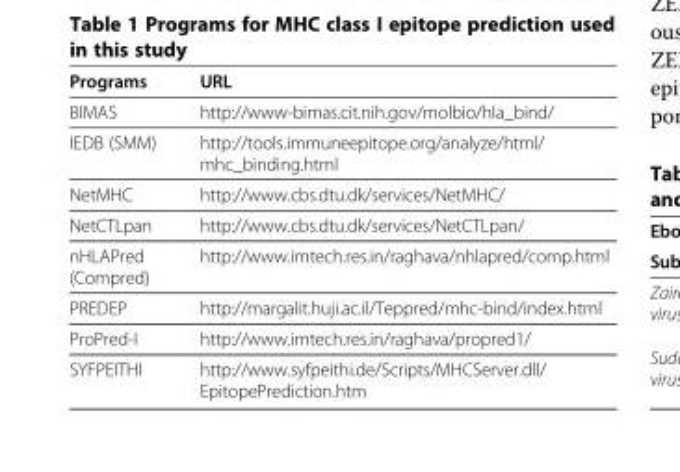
<table><thead><tr><td>Programs</td><td>URL</td></tr></thead><tbody><tr><td>BIMAS</td><td>http://www-bimas.cit.nih.gov/molbio/hla_bind/</td></tr><tr><td>IEDB (SMM)</td><td>http://tools.immuneepitope.org/analyze/html/ mhc_binding.html</td></tr><tr><td>NetMHC</td><td>http://www.cbs.dtu.dk/services/NetMHC/</td></tr><tr><td>NetCTLpan</td><td>http://www.cbs.dtu.dk/services/NetCTLpan/</td></tr><tr><td>nHLAPred (Compred)</td><td>http://www.imtech.res.in/raghava/nhlapred/comp.html</td></tr><tr><td>PREDEP</td><td>http://margalit.huji.ac.il/Teppred/mhc-bind/index.html</td></tr><tr><td>ProPred-I</td><td>http://www.imtech.res.in/raghava/propred1/</td></tr><tr><td>SYFPEITHI</td><td>http://www.syfpeithi.de/Scripts/MHCServer.dll/ EpitopePrediction.htm</td></tr></tbody></table>